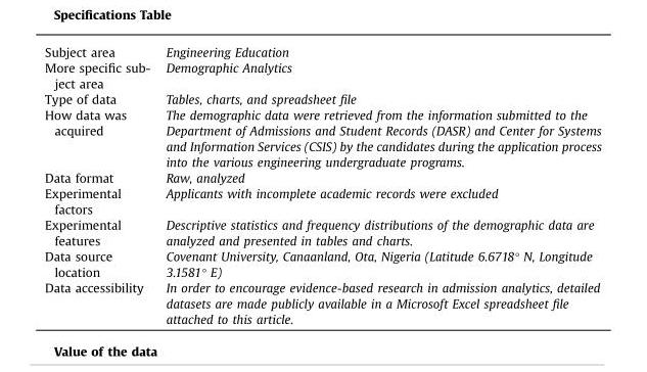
<table><tbody><tr><td>Subject area</td><td>Engineering Education</td></tr><tr><td>More specific sub- ject area</td><td>Demographic Analytics</td></tr><tr><td>Type of data</td><td>Tables, charts, and spreadsheet file</td></tr><tr><td>How data was acquired</td><td>The demographic data were retrieved from the information submitted to the Department of Admissions and Student Records (DASR) and Center for Systems and Information Services (CSIS) by the candidates during the application process into the various engineering undergraduate programs.</td></tr><tr><td>Data format</td><td>Raw, analyzed</td></tr><tr><td>Experimental factors</td><td>Applicants with incomplete academic records were excluded</td></tr><tr><td>Experimental features</td><td>Descriptive statistics and frequency distributions of the demographic data are analyzed and presented in tables and charts.</td></tr><tr><td>Data source location</td><td>Covenant University, Canaanland, Ota, Nigeria (Latitude 6.6718° N, Longitude 3.1581° E)</td></tr><tr><td>Data accessibility</td><td>In order to encourage evidence-based research in admission analytics, detailed datasets are made publicly available in a Microsoft Excel spreadsheet file attached to this article.</td></tr></tbody></table>